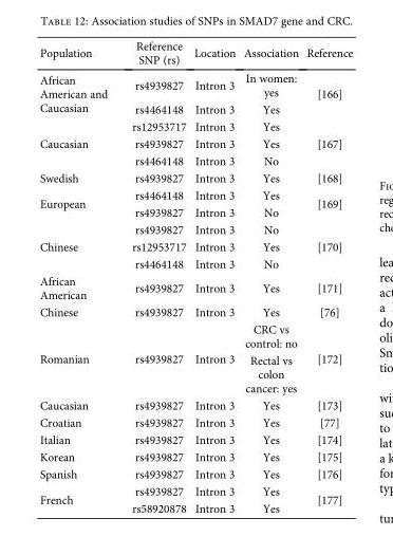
<table><thead><tr><td>Population</td><td>Reference SNP (rs)</td><td>Location</td><td>Association</td><td>Reference</td></tr></thead><tbody><tr><td rowspan="2">African American and Caucasian</td><td>rs4939827</td><td>Intron 3</td><td>In women: yes</td><td rowspan="2">[166]</td></tr><tr><td>rs4464148</td><td>Intron 3</td><td>Yes</td></tr><tr><td rowspan="3">Caucasian</td><td>rs12953717</td><td>Intron 3</td><td>Yes</td><td rowspan="3">[167]</td></tr><tr><td>rs4939827</td><td>Intron 3</td><td>Yes</td></tr><tr><td>rs4464148</td><td>Intron 3</td><td>No</td></tr><tr><td>Swedish</td><td>rs4939827</td><td>Intron 3</td><td>Yes</td><td>[168]</td></tr><tr><td rowspan="2">European</td><td>rs4464148</td><td>Intron 3</td><td>Yes</td><td rowspan="2">[169]</td></tr><tr><td>rs4939827</td><td>Intron 3</td><td>No</td></tr><tr><td rowspan="3">Chinese</td><td>rs4939827</td><td>Intron 3</td><td>No</td><td rowspan="3">[170]</td></tr><tr><td>rs12953717</td><td>Intron 3</td><td>Yes</td></tr><tr><td>rs4464148</td><td>Intron 3</td><td>No</td></tr><tr><td>African American</td><td>rs4939827</td><td>Intron 3</td><td>Yes</td><td>[171]</td></tr><tr><td>Chinese</td><td>rs4939827</td><td>Intron 3</td><td>Yes</td><td>[76]</td></tr><tr><td rowspan="2">Romanian</td><td rowspan="2">rs4939827</td><td rowspan="2">Intron 3</td><td>CRC vs control: no</td><td rowspan="2">[172]</td></tr><tr><td>Rectal vs colon cancer: yes</td></tr><tr><td>Caucasian</td><td>rs4939827</td><td>Intron 3</td><td>Yes</td><td>[173]</td></tr><tr><td>Croatian</td><td>rs4939827</td><td>Intron 3</td><td>Yes</td><td>[77]</td></tr><tr><td>Italian</td><td>rs4939827</td><td>Intron 3</td><td>Yes</td><td>[174]</td></tr><tr><td>Korean</td><td>rs4939827</td><td>Intron 3</td><td>Yes</td><td>[175]</td></tr><tr><td>Spanish</td><td>rs4939827</td><td>Intron 3</td><td>Yes</td><td>[176]</td></tr><tr><td rowspan="2">French</td><td>rs4939827</td><td>Intron 3</td><td>Yes</td><td rowspan="2">[177]</td></tr><tr><td>rs58920878</td><td>Intron 3</td><td>Yes</td></tr></tbody></table>